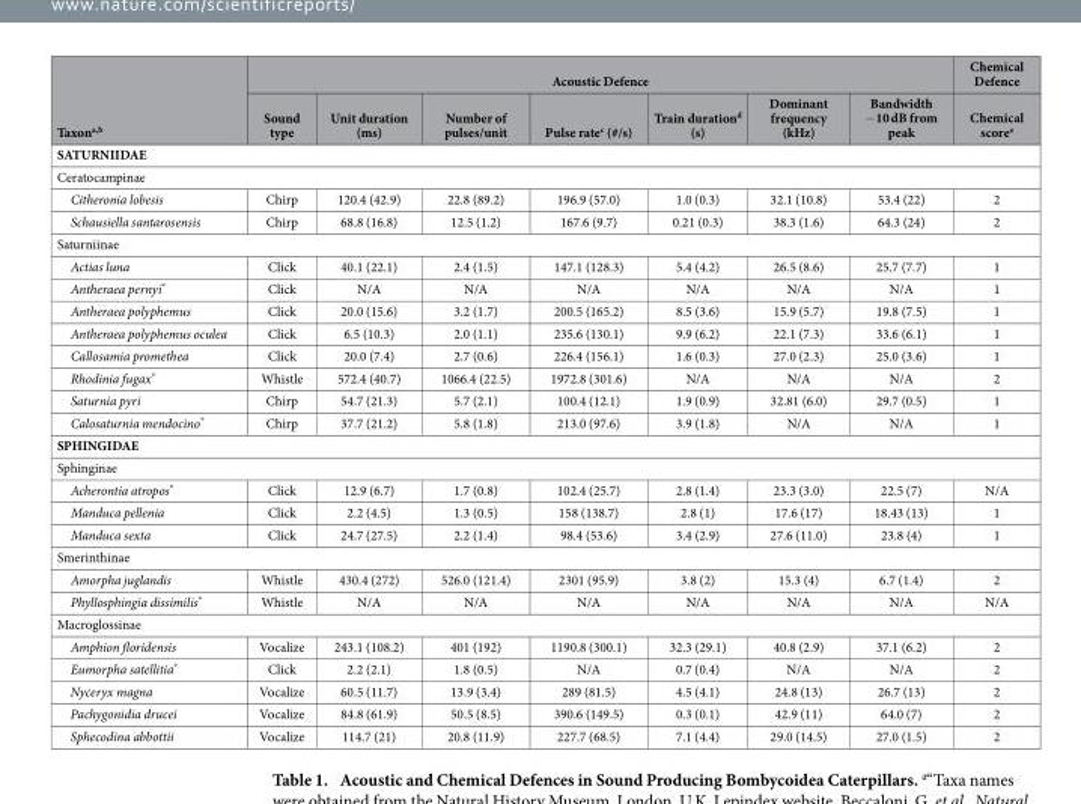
<table><thead><tr><td rowspan="2">Taxona,<sup>b</sup></td><td colspan="7">Acoustic Defence</td><td rowspan="2">Chemical Defence Chemical score<sup>e</sup></td></tr><tr><td>Sound type</td><td>Unit duration (ms)</td><td>Number of pulses/unit</td><td>Pulse rate<sup>c</sup> (#/s)</td><td>Train duration<sup>d</sup> (s)</td><td>Dominant frequency (kHz)</td><td>Bandwidth − 10 dB from peak</td></tr></thead><tbody><tr><td colspan="9">SATURNIIDAE</td></tr><tr><td colspan="9">Ceratocampinae</td></tr><tr><td>Citheronia lobesis</td><td>Chirp</td><td>120.4 (42.9)</td><td>22.8 (89.2)</td><td>196.9 (57.0)</td><td>1.0 (0.3)</td><td>32.1 (10.8)</td><td>53.4 (22)</td><td>2</td></tr><tr><td>Schausiella santarosensis</td><td>Chirp</td><td>68.8 (16.8)</td><td>12.5 (1.2)</td><td>167.6 (9.7)</td><td>0.21 (0.3)</td><td>38.3 (1.6)</td><td>64.3 (24)</td><td>2</td></tr><tr><td colspan="9">Saturniinae</td></tr><tr><td>Actias luna</td><td>Click</td><td>40.1 (22.1)</td><td>2.4 (1.5)</td><td>147.1 (128.3)</td><td>5.4 (4.2)</td><td>26.5 (8.6)</td><td>25.7 (7.7)</td><td>1</td></tr><tr><td>Antheraea pernyi*</td><td>Click</td><td>N/A</td><td>N/A</td><td>N/A</td><td>N/A</td><td>N/A</td><td>N/A</td><td>1</td></tr><tr><td>Antheraea polyphemus</td><td>Click</td><td>20.0 (15.6)</td><td>3.2 (1.7)</td><td>200.5 (165.2)</td><td>8.5 (3.6)</td><td>15.9 (5.7)</td><td>19.8 (7.5)</td><td>1</td></tr><tr><td>Antheraea polyphemus oculea</td><td>Click</td><td>6.5 (10.3)</td><td>2.0 (1.1)</td><td>235.6 (130.1)</td><td>9.9 (6.2)</td><td>22.1 (7.3)</td><td>33.6 (6.1)</td><td>1</td></tr><tr><td>Callosamia promethea</td><td>Click</td><td>20.0 (7.4)</td><td>2.7 (0.6)</td><td>226.4 (156.1)</td><td>1.6 (0.3)</td><td>27.0 (2.3)</td><td>25.0 (3.6)</td><td>1</td></tr><tr><td>Rhodinia fugax*</td><td>Whistle</td><td>572.4 (40.7)</td><td>1066.4 (22.5)</td><td>1972.8 (301.6)</td><td>N/A</td><td>N/A</td><td>N/A</td><td>2</td></tr><tr><td>Saturnia pyri</td><td>Chirp</td><td>54.7 (21.3)</td><td>5.7 (2.1)</td><td>100.4 (12.1)</td><td>1.9 (0.9)</td><td>32.81 (6.0)</td><td>29.7 (0.5)</td><td>1</td></tr><tr><td>Calosaturnia mendocino*</td><td>Chirp</td><td>37.7 (21.2)</td><td>5.8 (1.8)</td><td>213.0 (97.6)</td><td>3.9 (1.8)</td><td>N/A</td><td>N/A</td><td>1</td></tr><tr><td colspan="9">SPHINGIDAE</td></tr><tr><td colspan="9">Sphinginae</td></tr><tr><td>Acherontia atropos*</td><td>Click</td><td>12.9 (6.7)</td><td>1.7 (0.8)</td><td>102.4 (25.7)</td><td>2.8 (1.4)</td><td>23.3 (3.0)</td><td>22.5 (7)</td><td>N/A</td></tr><tr><td>Manduca pellenia</td><td>Click</td><td>2.2 (4.5)</td><td>1.3 (0.5)</td><td>158 (138.7)</td><td>2.8 (1)</td><td>17.6 (17)</td><td>18.43 (13)</td><td>1</td></tr><tr><td>Manduca sexta</td><td>Click</td><td>24.7 (27.5)</td><td>2.2 (1.4)</td><td>98.4 (53.6)</td><td>3.4 (2.9)</td><td>27.6 (11.0)</td><td>23.8 (4)</td><td>1</td></tr><tr><td colspan="9">Smerinthinae</td></tr><tr><td>Amorpha juglandis</td><td>Whistle</td><td>430.4 (272)</td><td>526.0 (121.4)</td><td>2301 (95.9)</td><td>3.8 (2)</td><td>15.3 (4)</td><td>6.7 (1.4)</td><td>2</td></tr><tr><td>Phyllosphingia dissimilis*</td><td>Whistle</td><td>N/A</td><td>N/A</td><td>N/A</td><td>N/A</td><td>N/A</td><td>N/A</td><td>N/A</td></tr><tr><td colspan="9">Macroglossinae</td></tr><tr><td>Amphion floridensis</td><td>Vocalize</td><td>243.1 (108.2)</td><td>401 (192)</td><td>1190.8 (300.1)</td><td>32.3 (29.1)</td><td>40.8 (2.9)</td><td>37.1 (6.2)</td><td>2</td></tr><tr><td>Eumorpha satellitia*</td><td>Click</td><td>2.2 (2.1)</td><td>1.8 (0.5)</td><td>N/A</td><td>0.7 (0.4)</td><td>N/A</td><td>N/A</td><td>2</td></tr><tr><td>Nyceryx magna</td><td>Vocalize</td><td>60.5 (11.7)</td><td>13.9 (3.4)</td><td>289 (81.5)</td><td>4.5 (4.1)</td><td>24.8 (13)</td><td>26.7 (13)</td><td>2</td></tr><tr><td>Pachygonidia drucei</td><td>Vocalize</td><td>84.8 (61.9)</td><td>50.5 (8.5)</td><td>390.6 (149.5)</td><td>0.3 (0.1)</td><td>42.9 (11)</td><td>64.0 (7)</td><td>2</td></tr><tr><td>Sphecodina abbottii</td><td>Vocalize</td><td>114.7 (21)</td><td>20.8 (11.9)</td><td>227.7 (68.5)</td><td>7.1 (4.4)</td><td>29.0 (14.5)</td><td>27.0 (1.5)</td><td>2</td></tr></tbody></table>